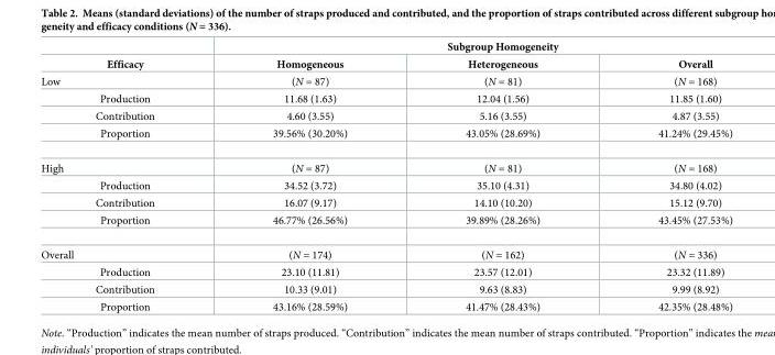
<table><thead><tr><td rowspan="2">Efficacy</td><td colspan="3">Subgroup Homogeneity</td></tr><tr><td>Homogeneous</td><td>Heterogeneous</td><td>Overall</td></tr></thead><tbody><tr><td>Low</td><td>(N = 87)</td><td>(N = 81)</td><td>(N = 168)</td></tr><tr><td>Production</td><td>11.68 (1.63)</td><td>12.04 (1.56)</td><td>11.85 (1.60)</td></tr><tr><td>Contribution</td><td>4.60 (3.55)</td><td>5.16 (3.55)</td><td>4.87 (3.55)</td></tr><tr><td>Proportion</td><td>39.56% (30.20%)</td><td>43.05% (28.69%)</td><td>41.24% (29.45%)</td></tr><tr><td>High</td><td>(N = 87)</td><td>(N = 81)</td><td>(N = 168)</td></tr><tr><td>Production</td><td>34.52 (3.72)</td><td>35.10 (4.31)</td><td>34.80 (4.02)</td></tr><tr><td>Contribution</td><td>16.07 (9.17)</td><td>14.10 (10.20)</td><td>15.12 (9.70)</td></tr><tr><td>Proportion</td><td>46.77% (26.56%)</td><td>39.89% (28.26%)</td><td>43.45% (27.53%)</td></tr><tr><td>Overall</td><td>(N = 174)</td><td>(N = 162)</td><td>(N = 336)</td></tr><tr><td>Production</td><td>23.10 (11.81)</td><td>23.57 (12.01)</td><td>23.32 (11.89)</td></tr><tr><td>Contribution</td><td>10.33 (9.01)</td><td>9.63 (8.83)</td><td>9.99 (8.92)</td></tr><tr><td>Proportion</td><td>43.16% (28.59%)</td><td>41.47% (28.43%)</td><td>42.35% (28.48%)</td></tr></tbody></table>